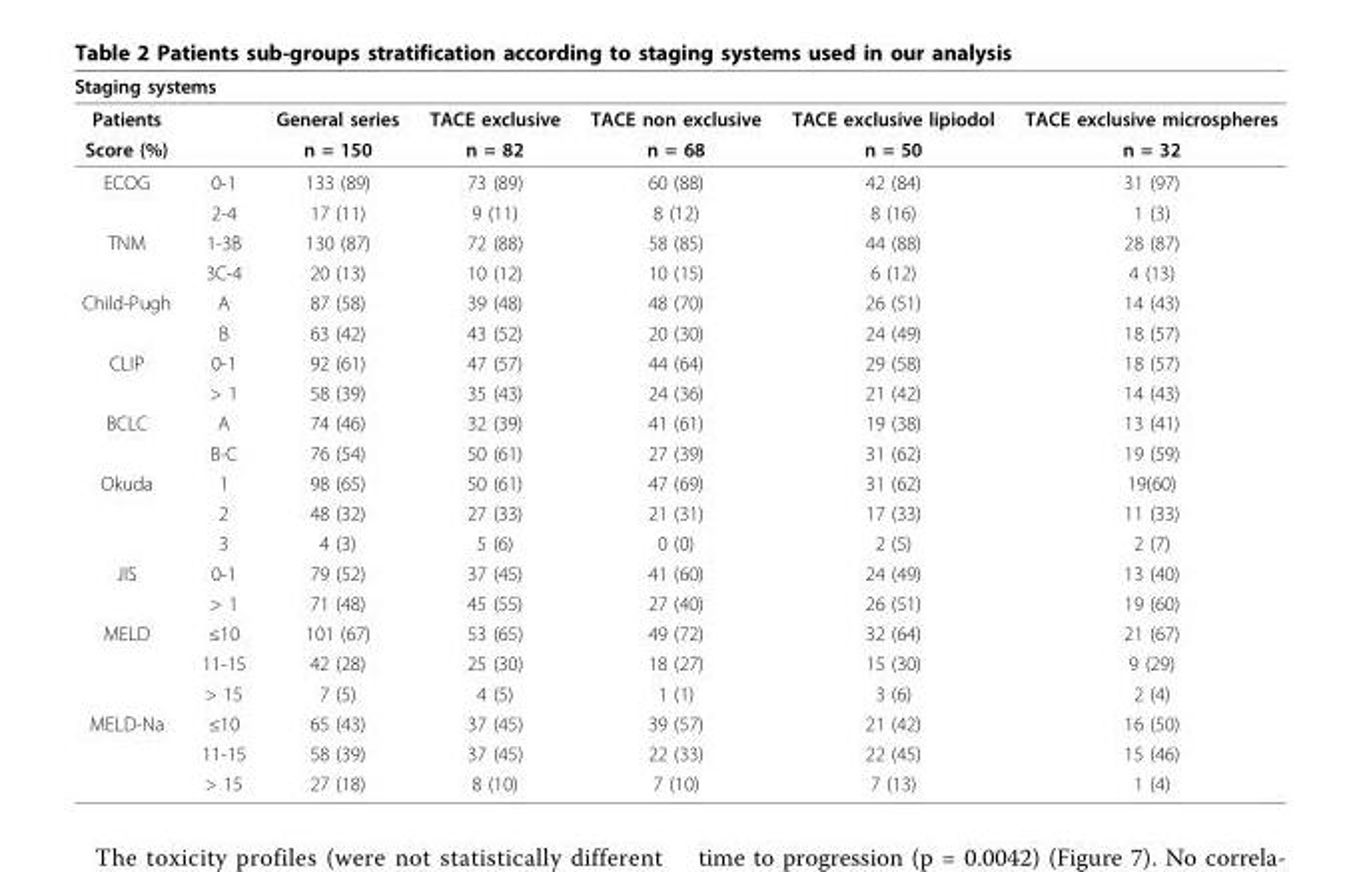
<table><thead><tr><td colspan="7">Staging systems</td></tr><tr><td>Patients</td><td></td><td>General series</td><td>TACE exclusive</td><td>TACE non exclusive</td><td>TACE exclusive lipiodol</td><td>TACE exclusive microspheres</td></tr></thead><tbody><tr><td>Score (%)</td><td></td><td>n = 150</td><td>n = 82</td><td>n = 68</td><td>n = 50</td><td>n = 32</td></tr><tr><td rowspan="2">ECOG</td><td>0-1</td><td>133 (89)</td><td>73 (89)</td><td>60 (88)</td><td>42 (84)</td><td>31 (97)</td></tr><tr><td>2-4</td><td>17 (11)</td><td>9 (11)</td><td>8 (12)</td><td>8 (16)</td><td>1 (3)</td></tr><tr><td rowspan="2">TNM</td><td>1-3B</td><td>130 (87)</td><td>72 (88)</td><td>58 (85)</td><td>44 (88)</td><td>28 (87)</td></tr><tr><td>3C-4</td><td>20 (13)</td><td>10 (12)</td><td>10 (15)</td><td>6 (12)</td><td>4 (13)</td></tr><tr><td rowspan="2">Child-Pugh</td><td>A</td><td>87 (58)</td><td>39 (48)</td><td>48 (70)</td><td>26 (51)</td><td>14 (43)</td></tr><tr><td>B</td><td>63 (42)</td><td>43 (52)</td><td>20 (30)</td><td>24 (49)</td><td>18 (57)</td></tr><tr><td rowspan="2">CLIP</td><td>0-1</td><td>92 (61)</td><td>47 (57)</td><td>44 (64)</td><td>29 (58)</td><td>18 (57)</td></tr><tr><td>&gt; 1</td><td>58 (39)</td><td>35 (43)</td><td>24 (36)</td><td>21 (42)</td><td>14 (43)</td></tr><tr><td rowspan="2">BCLC</td><td>A</td><td>74 (46)</td><td>32 (39)</td><td>41 (61)</td><td>19 (38)</td><td>13 (41)</td></tr><tr><td>B-C</td><td>76 (54)</td><td>50 (61)</td><td>27 (39)</td><td>31 (62)</td><td>19 (59)</td></tr><tr><td rowspan="3">Okuda</td><td>1</td><td>98 (65)</td><td>50 (61)</td><td>47 (69)</td><td>31 (62)</td><td>19(60)</td></tr><tr><td>2</td><td>48 (32)</td><td>27 (33)</td><td>21 (31)</td><td>17 (33)</td><td>11 (33)</td></tr><tr><td>3</td><td>4 (3)</td><td>5 (6)</td><td>0 (0)</td><td>2 (5)</td><td>2 (7)</td></tr><tr><td rowspan="2">JIS</td><td>0-1</td><td>79 (52)</td><td>37 (45)</td><td>41 (60)</td><td>24 (49)</td><td>13 (40)</td></tr><tr><td>&gt; 1</td><td>71 (48)</td><td>45 (55)</td><td>27 (40)</td><td>26 (51)</td><td>19 (60)</td></tr><tr><td rowspan="3">MELD</td><td>≤10</td><td>101 (67)</td><td>53 (65)</td><td>49 (72)</td><td>32 (64)</td><td>21 (67)</td></tr><tr><td>11-15</td><td>42 (28)</td><td>25 (30)</td><td>18 (27)</td><td>15 (30)</td><td>9 (29)</td></tr><tr><td>&gt; 15</td><td>7 (5)</td><td>4 (5)</td><td>1 (1)</td><td>3 (6)</td><td>2 (4)</td></tr><tr><td rowspan="3">MELD-Na</td><td>≤10</td><td>65 (43)</td><td>37 (45)</td><td>39 (57)</td><td>21 (42)</td><td>16 (50)</td></tr><tr><td>11-15</td><td>58 (39)</td><td>37 (45)</td><td>22 (33)</td><td>22 (45)</td><td>15 (46)</td></tr><tr><td>&gt; 15</td><td>27 (18)</td><td>8 (10)</td><td>7 (10)</td><td>7 (13)</td><td>1 (4)</td></tr></tbody></table>